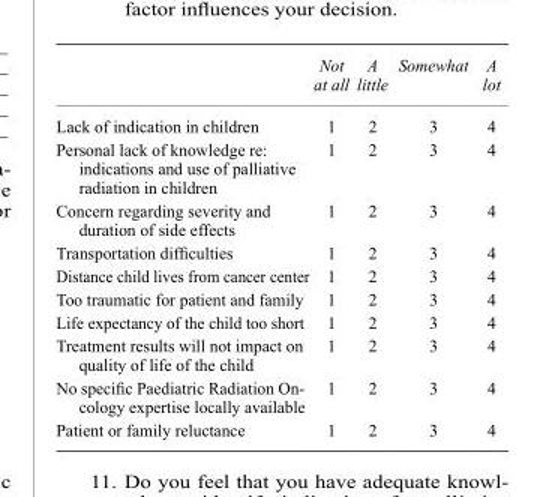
<table><thead><tr><td></td><td>Not at all</td><td>A little</td><td>Somewhat</td><td>A lot</td></tr></thead><tbody><tr><td>Lack of indication in children</td><td>1</td><td>2</td><td>3</td><td>4</td></tr><tr><td>Personal lack of knowledge re: indications and use of palliative radiation in children</td><td>1</td><td>2</td><td>3</td><td>4</td></tr><tr><td>Concern regarding severity and duration of side effects</td><td>1</td><td>2</td><td>3</td><td>4</td></tr><tr><td>Transportation difficulties</td><td>1</td><td>2</td><td>3</td><td>4</td></tr><tr><td>Distance child lives from cancer center</td><td>1</td><td>2</td><td>3</td><td>4</td></tr><tr><td>Too traumatic for patient and family</td><td>1</td><td>2</td><td>3</td><td>4</td></tr><tr><td>Life expectancy of the child too short</td><td>1</td><td>2</td><td>3</td><td>4</td></tr><tr><td>Treatment results will not impact on quality of life of the child</td><td>1</td><td>2</td><td>3</td><td>4</td></tr><tr><td>No specific Paediatric Radiation On- cology expertise locally available</td><td>1</td><td>2</td><td>3</td><td>4</td></tr><tr><td>Patient or family reluctance</td><td>1</td><td>2</td><td>3</td><td>4</td></tr></tbody></table>